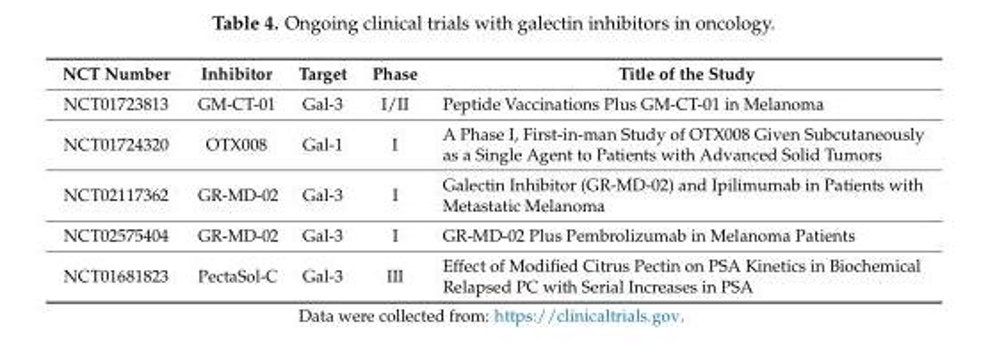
<table><thead><tr><td>NCT Number</td><td>Inhibitor</td><td>Target</td><td>Phase</td><td>Title of the Study</td></tr></thead><tbody><tr><td>NCT01723813</td><td>GM-CT-01</td><td>Gal-3</td><td>I/II</td><td>Peptide Vaccinations Plus GM-CT-01 in Melanoma</td></tr><tr><td>NCT01724320</td><td>OTX008</td><td>Gal-1</td><td>I</td><td>A Phase I, First-in-man Study of OTX008 Given Subcutaneously as a Single Agent to Patients with Advanced Solid Tumors</td></tr><tr><td>NCT02117362</td><td>GR-MD-02</td><td>Gal-3</td><td>I</td><td>Galectin Inhibitor (GR-MD-02) and Ipilimumab in Patients with Metastatic Melanoma</td></tr><tr><td>NCT02575404</td><td>GR-MD-02</td><td>Gal-3</td><td>I</td><td>GR-MD-02 Plus Pembrolizumab in Melanoma Patients</td></tr><tr><td>NCT01681823</td><td>PectaSol-C</td><td>Gal-3</td><td>III</td><td>Effect of Modified Citrus Pectin on PSA Kinetics in Biochemical Relapsed PC with Serial Increases in PSA</td></tr></tbody></table>